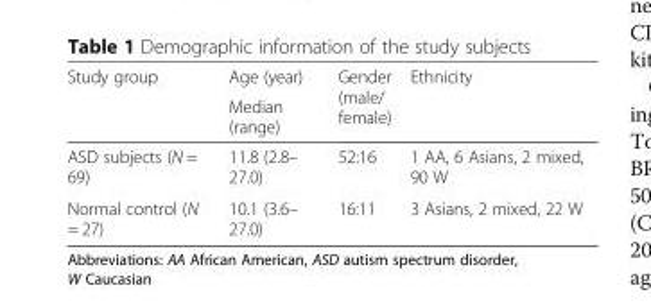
<table><thead><tr><td rowspan="2">Study group</td><td rowspan="2">Age (year) Median (range)</td><td rowspan="2">Gender (male/ female)</td><td rowspan="2">Ethnicity</td></tr><tr></tr></thead><tbody><tr><td>ASD subjects (N = 69)</td><td>11.8 (2.8– 27.0)</td><td>52:16</td><td>1 AA, 6 Asians, 2 mixed, 90 W</td></tr><tr><td>Normal control (N = 27)</td><td>10.1 (3.6– 27.0)</td><td>16:11</td><td>3 Asians, 2 mixed, 22 W</td></tr></tbody></table>